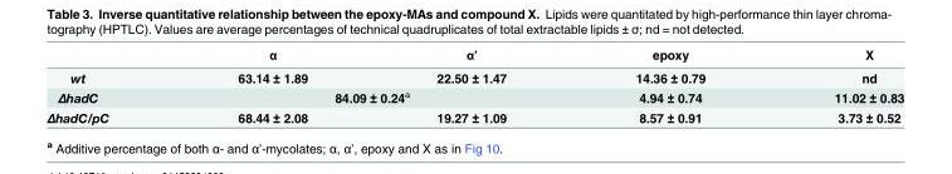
<table><thead><tr><td></td><td>α</td><td>α’</td><td>epoxy</td><td>X</td></tr></thead><tbody><tr><td>wt</td><td>63.14 ± 1.89</td><td>22.50 ± 1.47</td><td>14.36 ± 0.79</td><td>nd</td></tr><tr><td>ΔhadC</td><td colspan="2">84.09 ± 0.24<sup>a</sup></td><td>4.94 ± 0.74</td><td>11.02 ± 0.83</td></tr><tr><td>ΔhadC/pC</td><td>68.44 ± 2.08</td><td>19.27 ± 1.09</td><td>8.57 ± 0.91</td><td>3.73 ± 0.52</td></tr></tbody></table>